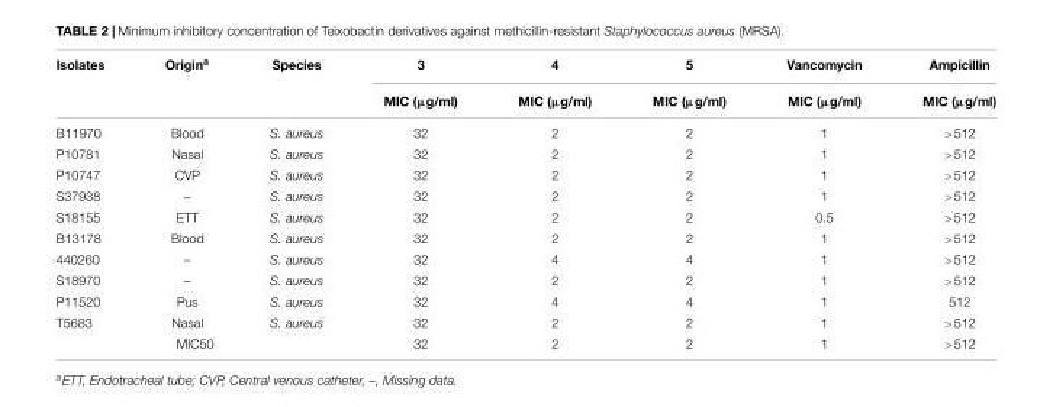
<table><thead><tr><td rowspan="2">Isolates</td><td rowspan="2">Origin<sup>a</sup></td><td rowspan="2">Species</td><td rowspan="2">3 MIC (µg/ml)</td><td rowspan="2">4 MIC (µg/ml)</td><td rowspan="2">5 MIC (µg/ml)</td><td rowspan="2">Vancomycin MIC (µg/ml)</td><td rowspan="2">Ampicillin MIC (µg/ml)</td></tr><tr></tr></thead><tbody><tr><td>B11970</td><td>Blood</td><td>S. aureus</td><td>32</td><td>2</td><td>2</td><td>1</td><td>&gt;512</td></tr><tr><td>P10781</td><td>Nasal</td><td>S. aureus</td><td>32</td><td>2</td><td>2</td><td>1</td><td>&gt;512</td></tr><tr><td>P10747</td><td>CVP</td><td>S. aureus</td><td>32</td><td>2</td><td>2</td><td>1</td><td>&gt;512</td></tr><tr><td>S37938</td><td>–</td><td>S. aureus</td><td>32</td><td>2</td><td>2</td><td>1</td><td>&gt;512</td></tr><tr><td>S18155</td><td>ETT</td><td>S. aureus</td><td>32</td><td>2</td><td>2</td><td>0.5</td><td>&gt;512</td></tr><tr><td>B13178</td><td>Blood</td><td>S. aureus</td><td>32</td><td>2</td><td>2</td><td>1</td><td>&gt;512</td></tr><tr><td>440260</td><td>–</td><td>S. aureus</td><td>32</td><td>4</td><td>4</td><td>1</td><td>&gt;512</td></tr><tr><td>S18970</td><td>–</td><td>S. aureus</td><td>32</td><td>2</td><td>2</td><td>1</td><td>&gt;512</td></tr><tr><td>P11520</td><td>Pus</td><td>S. aureus</td><td>32</td><td>4</td><td>4</td><td>1</td><td>512</td></tr><tr><td>T5683</td><td>Nasal</td><td>S. aureus</td><td>32</td><td>2</td><td>2</td><td>1</td><td>&gt;512</td></tr><tr><td colspan="3">MIC50</td><td>32</td><td>2</td><td>2</td><td>1</td><td>&gt;512</td></tr></tbody></table>